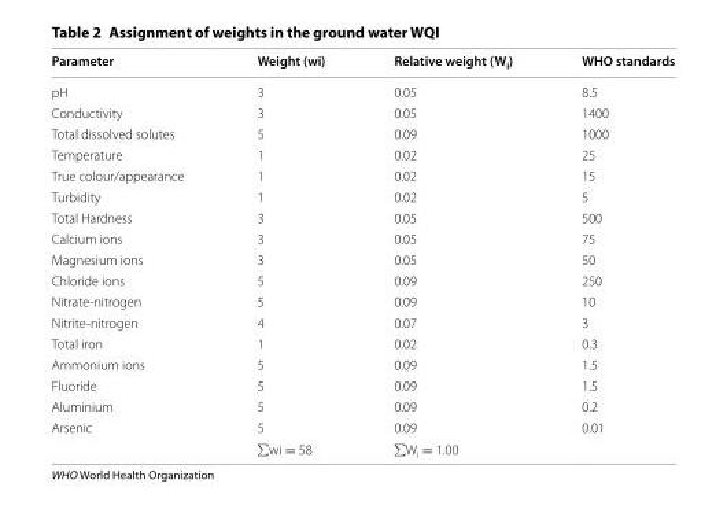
<table><thead><tr><td>Parameter</td><td>Weight (wi)</td><td>Relative weight (W<sub>i</sub>)</td><td>WHO standards</td></tr></thead><tbody><tr><td>pH</td><td>3</td><td>0.05</td><td>8.5</td></tr><tr><td>Conductivity</td><td>3</td><td>0.05</td><td>1400</td></tr><tr><td>Total dissolved solutes</td><td>5</td><td>0.09</td><td>1000</td></tr><tr><td>Temperature</td><td>1</td><td>0.02</td><td>25</td></tr><tr><td>True colour/appearance</td><td>1</td><td>0.02</td><td>15</td></tr><tr><td>Turbidity</td><td>1</td><td>0.02</td><td>5</td></tr><tr><td>Total Hardness</td><td>3</td><td>0.05</td><td>500</td></tr><tr><td>Calcium ions</td><td>3</td><td>0.05</td><td>75</td></tr><tr><td>Magnesium ions</td><td>3</td><td>0.05</td><td>50</td></tr><tr><td>Chloride ions</td><td>5</td><td>0.09</td><td>250</td></tr><tr><td>Nitrate-nitrogen</td><td>5</td><td>0.09</td><td>10</td></tr><tr><td>Nitrite-nitrogen</td><td>4</td><td>0.07</td><td>3</td></tr><tr><td>Total iron</td><td>1</td><td>0.02</td><td>0.3</td></tr><tr><td>Ammonium ions</td><td>5</td><td>0.09</td><td>1.5</td></tr><tr><td>Fluoride</td><td>5</td><td>0.09</td><td>1.5</td></tr><tr><td>Aluminium</td><td>5</td><td>0.09</td><td>0.2</td></tr><tr><td rowspan="2">Arsenic</td><td>5</td><td>0.09</td><td>0.01</td></tr><tr><td>∑wi = 58</td><td>∑W<sub>i</sub> = 1.00</td><td></td></tr></tbody></table>